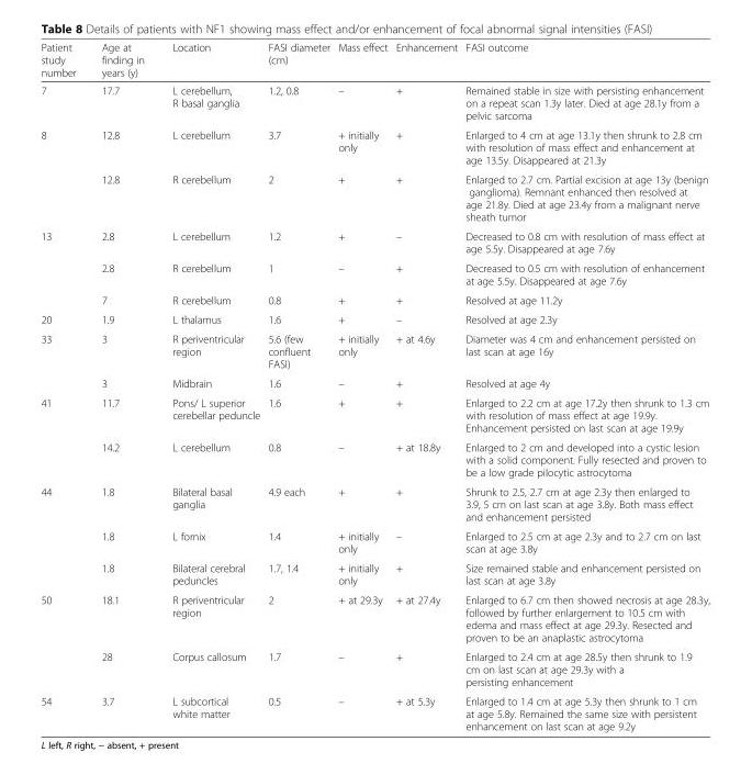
<table><thead><tr><td>Patient study number</td><td>Age at finding in years (y)</td><td>Location</td><td>FASI diameter (cm)</td><td>Mass effect</td><td>Enhancement</td><td>FASI outcome</td></tr></thead><tbody><tr><td>7</td><td>17.7</td><td>L cerebellum, R basal ganglia</td><td>1.2, 0.8</td><td>–</td><td>+</td><td>Remained stable in size with persisting enhancement on a repeat scan 1.3y later. Died at age 28.1y from a pelvic sarcoma</td></tr><tr><td rowspan="2">8</td><td>12.8</td><td>L cerebellum</td><td>3.7</td><td>+ initially only</td><td>+</td><td>Enlarged to 4 cm at age 13.1y then shrunk to 2.8 cm with resolution of mass effect and enhancement at age 13.5y. Disappeared at 21.3y</td></tr><tr><td>12.8</td><td>R cerebellum</td><td>2</td><td>+</td><td>+</td><td>Enlarged to 2.7 cm. Partial excision at age 13y (benign ganglioma). Remnant enhanced then resolved at age 21.8y. Died at age 23.4y from a malignant nerve sheath tumor</td></tr><tr><td rowspan="3">13</td><td>2.8</td><td>L cerebellum</td><td>1.2</td><td>+</td><td>–</td><td>Decreased to 0.8 cm with resolution of mass effect at age 5.5y. Disappeared at age 7.6y</td></tr><tr><td>2.8</td><td>R cerebellum</td><td>1</td><td>–</td><td>+</td><td>Decreased to 0.5 cm with resolution of enhancement at age 5.5y. Disappeared at age 7.6y</td></tr><tr><td>7</td><td>R cerebellum</td><td>0.8</td><td>+</td><td>+</td><td>Resolved at age 11.2y</td></tr><tr><td>20</td><td>1.9</td><td>L thalamus</td><td>1.6</td><td>+</td><td>–</td><td>Resolved at age 2.3y</td></tr><tr><td rowspan="2">33</td><td>3</td><td>R periventricular region</td><td>5.6 (few confluent FASI)</td><td>+ initially only</td><td>+ at 4.6y</td><td>Diameter was 4 cm and enhancement persisted on last scan at age 16y</td></tr><tr><td>3</td><td>Midbrain</td><td>1.6</td><td>–</td><td>+</td><td>Resolved at age 4y</td></tr><tr><td rowspan="2">41</td><td>11.7</td><td>Pons/ L superior cerebellar peduncle</td><td>1.6</td><td>+</td><td>+</td><td>Enlarged to 2.2 cm at age 17.2y then shrunk to 1.3 cm with resolution of mass effect at age 19.9y. Enhancement persisted on last scan at age 19.9y</td></tr><tr><td>14.2</td><td>L cerebellum</td><td>0.8</td><td>–</td><td>+ at 18.8y</td><td>Enlarged to 2 cm and developed into a cystic lesion with a solid component. Fully resected and proven to be a low grade pilocytic astrocytoma</td></tr><tr><td rowspan="3">44</td><td>1.8</td><td>Bilateral basal ganglia</td><td>4.9 each</td><td>+</td><td>+</td><td>Shrunk to 2.5, 2.7 cm at age 2.3y then enlarged to 3.9, 5 cm on last scan at age 3.8y. Both mass effect and enhancement persisted</td></tr><tr><td>1.8</td><td>L fornix</td><td>1.4</td><td>+ initially only</td><td>–</td><td>Enlarged to 2.5 cm at age 2.3y and to 2.7 cm on last scan at age 3.8y</td></tr><tr><td>1.8</td><td>Bilateral cerebral peduncles</td><td>1.7, 1.4</td><td>+ initially only</td><td>+</td><td>Size remained stable and enhancement persisted on last scan at age 3.8y</td></tr><tr><td rowspan="2">50</td><td>18.1</td><td>R periventricular region</td><td>2</td><td>+ at 29.3y</td><td>+ at 27.4y</td><td>Enlarged to 6.7 cm then showed necrosis at age 28.3y, followed by further enlargement to 10.5 cm with edema and mass effect at age 29.3y. Resected and proven to be an anaplastic astrocytoma</td></tr><tr><td>28</td><td>Corpus callosum</td><td>1.7</td><td>–</td><td>+</td><td>Enlarged to 2.4 cm at age 28.5y then shrunk to 1.9 cm on last scan at age 29.3y with a persisting enhancement</td></tr><tr><td>54</td><td>3.7</td><td>L subcortical white matter</td><td>0.5</td><td>–</td><td>+ at 5.3y</td><td>Enlarged to 1.4 cm at age 5.3y then shrunk to 1 cm at age 5.8y. Remained the same size with persistent enhancement on last scan at age 9.2y</td></tr></tbody></table>